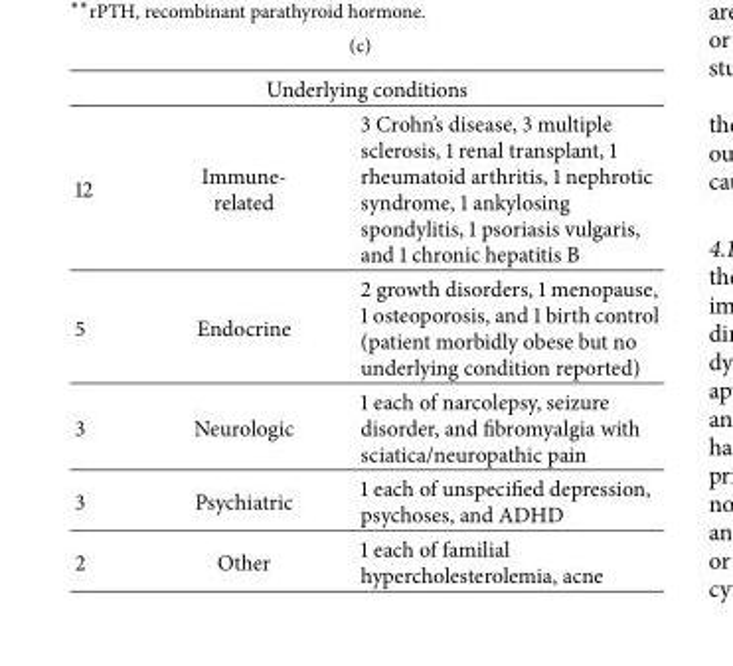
<table><thead><tr><td colspan="3">Underlying conditions</td></tr><tr><td>12</td><td>Immune- related</td><td>3 Crohn’s disease, 3 multiple sclerosis, 1 renal transplant, 1 rheumatoid arthritis, 1 nephrotic syndrome, 1 ankylosing spondylitis, 1 psoriasis vulgaris, and 1 chronic hepatitis B</td></tr></thead><tbody><tr><td>5</td><td>Endocrine</td><td>2 growth disorders, 1 menopause, 1 osteoporosis, and 1 birth control (patient morbidly obese but no underlying condition reported)</td></tr><tr><td>3</td><td>Neurologic</td><td>1 each of narcolepsy, seizure disorder, and fibromyalgia with sciatica/neuropathic pain</td></tr><tr><td>3</td><td>Psychiatric</td><td>1 each of unspecified depression, psychoses, and ADHD</td></tr><tr><td>2</td><td>Other</td><td>1 each of familial hypercholesterolemia, acne</td></tr></tbody></table>